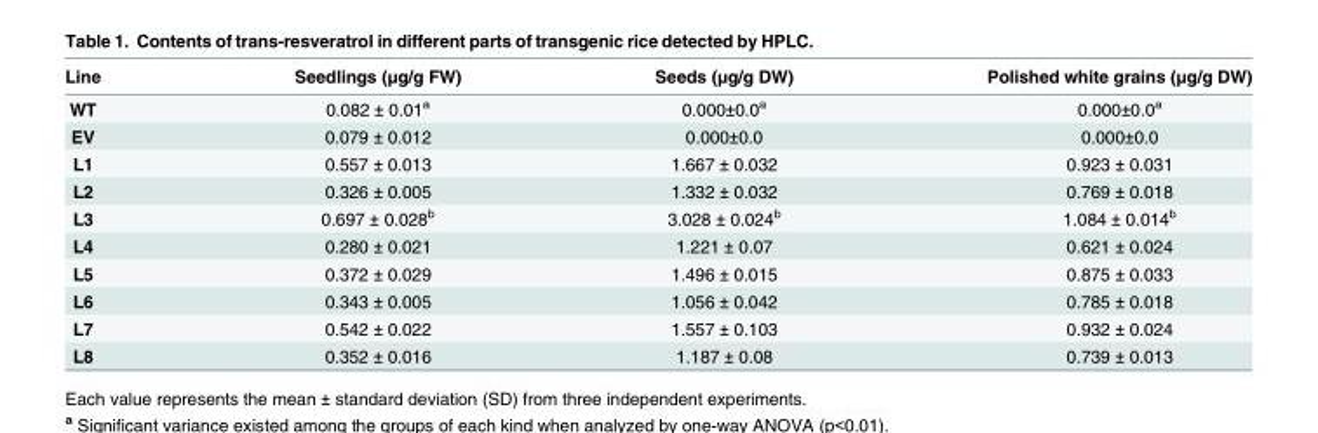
<table><thead><tr><td>Line</td><td>Seedlings (μg/g FW)</td><td>Seeds (μg/g DW)</td><td>Polished white grains (μg/g DW)</td></tr></thead><tbody><tr><td>WT</td><td>0.082 ± 0.01<sup>a</sup></td><td>0.000±0.0<sup>a</sup></td><td>0.000±0.0<sup>a</sup></td></tr><tr><td>EV</td><td>0.079 ± 0.012</td><td>0.000±0.0</td><td>0.000±0.0</td></tr><tr><td>L1</td><td>0.557 ± 0.013</td><td>1.667 ± 0.032</td><td>0.923 ± 0.031</td></tr><tr><td>L2</td><td>0.326 ± 0.005</td><td>1.332 ± 0.032</td><td>0.769 ± 0.018</td></tr><tr><td>L3</td><td>0.697 ± 0.028<sup>b</sup></td><td>3.028 ± 0.024<sup>b</sup></td><td>1.084 ± 0.014<sup>b</sup></td></tr><tr><td>L4</td><td>0.280 ± 0.021</td><td>1.221 ± 0.07</td><td>0.621 ± 0.024</td></tr><tr><td>L5</td><td>0.372 ± 0.029</td><td>1.496 ± 0.015</td><td>0.875 ± 0.033</td></tr><tr><td>L6</td><td>0.343 ± 0.005</td><td>1.056 ± 0.042</td><td>0.785 ± 0.018</td></tr><tr><td>L7</td><td>0.542 ± 0.022</td><td>1.557 ± 0.103</td><td>0.932 ± 0.024</td></tr><tr><td>L8</td><td>0.352 ± 0.016</td><td>1.187 ± 0.08</td><td>0.739 ± 0.013</td></tr></tbody></table>